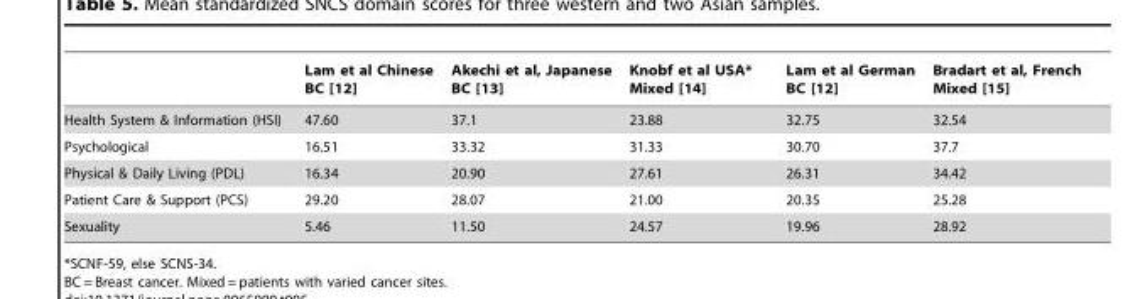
<table><thead><tr><td></td><td>Lam et al Chinese BC [12]</td><td>Akechi et al, Japanese BC [13]</td><td>Knobf et al USA* Mixed [14]</td><td>Lam et al German BC [12]</td><td>Bradart et al, French Mixed [15]</td></tr></thead><tbody><tr><td>Health System &amp; Information (HSI)</td><td>47.60</td><td>37.1</td><td>23.88</td><td>32.75</td><td>32.54</td></tr><tr><td>Psychological</td><td>16.51</td><td>33.32</td><td>31.33</td><td>30.70</td><td>37.7</td></tr><tr><td>Physical &amp; Daily Living (PDL)</td><td>16.34</td><td>20.90</td><td>27.61</td><td>26.31</td><td>34.42</td></tr><tr><td>Patient Care &amp; Support (PCS)</td><td>29.20</td><td>28.07</td><td>21.00</td><td>20.35</td><td>25.28</td></tr><tr><td>Sexuality</td><td>5.46</td><td>11.50</td><td>24.57</td><td>19.96</td><td>28.92</td></tr></tbody></table>